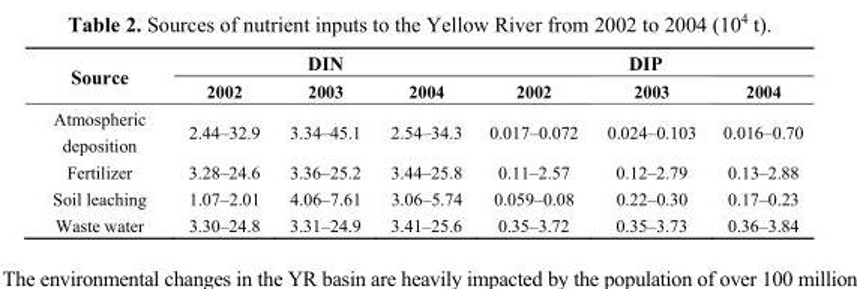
<table><thead><tr><td rowspan="2">Source</td><td colspan="3">DIN</td><td colspan="3">DIP</td></tr><tr><td>2002</td><td>2003</td><td>2004</td><td>2002</td><td>2003</td><td>2004</td></tr></thead><tbody><tr><td>Atmospheric deposition</td><td>2.44–32.9</td><td>3.34–45.1</td><td>2.54–34.3</td><td>0.017–0.072</td><td>0.024–0.103</td><td>0.016–0.70</td></tr><tr><td>Fertilizer</td><td>3.28–24.6</td><td>3.36–25.2</td><td>3.44–25.8</td><td>0.11–2.57</td><td>0.12–2.79</td><td>0.13–2.88</td></tr><tr><td>Soil leaching</td><td>1.07–2.01</td><td>4.06–7.61</td><td>3.06–5.74</td><td>0.059–0.08</td><td>0.22–0.30</td><td>0.17–0.23</td></tr><tr><td>Waste water</td><td>3.30–24.8</td><td>3.31–24.9</td><td>3.41–25.6</td><td>0.35–3.72</td><td>0.35–3.73</td><td>0.36–3.84</td></tr></tbody></table>